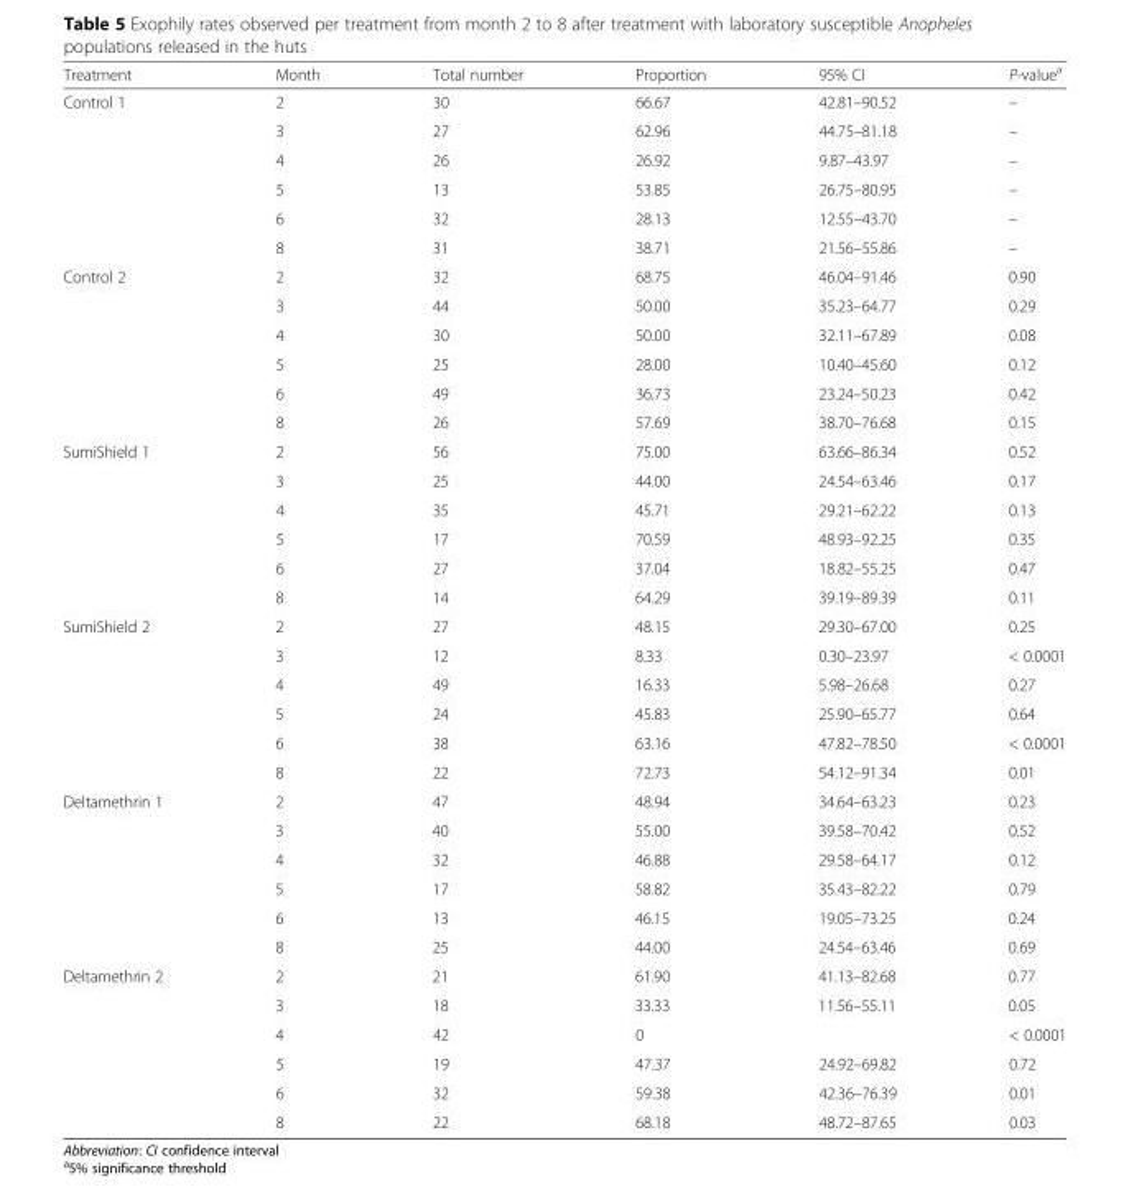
<table><thead><tr><td>Treatment</td><td>Month</td><td>Total number</td><td>Proportion</td><td>95% CI</td><td>P-value<sup>a</sup></td></tr></thead><tbody><tr><td rowspan="6">Control 1</td><td>2</td><td>30</td><td>66.67</td><td>42.81–90.52</td><td>–</td></tr><tr><td>3</td><td>27</td><td>62.96</td><td>44.75–81.18</td><td>–</td></tr><tr><td>4</td><td>26</td><td>26.92</td><td>9.87–43.97</td><td>–</td></tr><tr><td>5</td><td>13</td><td>53.85</td><td>26.75–80.95</td><td>–</td></tr><tr><td>6</td><td>32</td><td>28.13</td><td>12.55–43.70</td><td>–</td></tr><tr><td>8</td><td>31</td><td>38.71</td><td>21.56–55.86</td><td>–</td></tr><tr><td rowspan="6">Control 2</td><td>2</td><td>32</td><td>68.75</td><td>46.04–91.46</td><td>0.90</td></tr><tr><td>3</td><td>44</td><td>50.00</td><td>35.23–64.77</td><td>0.29</td></tr><tr><td>4</td><td>30</td><td>50.00</td><td>32.11–67.89</td><td>0.08</td></tr><tr><td>5</td><td>25</td><td>28.00</td><td>10.40–45.60</td><td>0.12</td></tr><tr><td>6</td><td>49</td><td>36.73</td><td>23.24–50.23</td><td>0.42</td></tr><tr><td>8</td><td>26</td><td>57.69</td><td>38.70–76.68</td><td>0.15</td></tr><tr><td rowspan="6">SumiShield 1</td><td>2</td><td>56</td><td>75.00</td><td>63.66–86.34</td><td>0.52</td></tr><tr><td>3</td><td>25</td><td>44.00</td><td>24.54–63.46</td><td>0.17</td></tr><tr><td>4</td><td>35</td><td>45.71</td><td>29.21–62.22</td><td>0.13</td></tr><tr><td>5</td><td>17</td><td>70.59</td><td>48.93–92.25</td><td>0.35</td></tr><tr><td>6</td><td>27</td><td>37.04</td><td>18.82–55.25</td><td>0.47</td></tr><tr><td>8</td><td>14</td><td>64.29</td><td>39.19–89.39</td><td>0.11</td></tr><tr><td rowspan="6">SumiShield 2</td><td>2</td><td>27</td><td>48.15</td><td>29.30–67.00</td><td>0.25</td></tr><tr><td>3</td><td>12</td><td>8.33</td><td>0.30–23.97</td><td>&lt; 0.0001</td></tr><tr><td>4</td><td>49</td><td>16.33</td><td>5.98–26.68</td><td>0.27</td></tr><tr><td>5</td><td>24</td><td>45.83</td><td>25.90–65.77</td><td>0.64</td></tr><tr><td>6</td><td>38</td><td>63.16</td><td>47.82–78.50</td><td>&lt; 0.0001</td></tr><tr><td>8</td><td>22</td><td>72.73</td><td>54.12–91.34</td><td>0.01</td></tr><tr><td rowspan="6">Deltamethrin 1</td><td>2</td><td>47</td><td>48.94</td><td>34.64–63.23</td><td>0.23</td></tr><tr><td>3</td><td>40</td><td>55.00</td><td>39.58–70.42</td><td>0.52</td></tr><tr><td>4</td><td>32</td><td>46.88</td><td>29.58–64.17</td><td>0.12</td></tr><tr><td>5</td><td>17</td><td>58.82</td><td>35.43–82.22</td><td>0.79</td></tr><tr><td>6</td><td>13</td><td>46.15</td><td>19.05–73.25</td><td>0.24</td></tr><tr><td>8</td><td>25</td><td>44.00</td><td>24.54–63.46</td><td>0.69</td></tr><tr><td rowspan="6">Deltamethrin 2</td><td>2</td><td>21</td><td>61.90</td><td>41.13–82.68</td><td>0.77</td></tr><tr><td>3</td><td>18</td><td>33.33</td><td>11.56–55.11</td><td>0.05</td></tr><tr><td>4</td><td>42</td><td>0</td><td></td><td>&lt; 0.0001</td></tr><tr><td>5</td><td>19</td><td>47.37</td><td>24.92–69.82</td><td>0.72</td></tr><tr><td>6</td><td>32</td><td>59.38</td><td>42.36–76.39</td><td>0.01</td></tr><tr><td>8</td><td>22</td><td>68.18</td><td>48.72–87.65</td><td>0.03</td></tr></tbody></table>